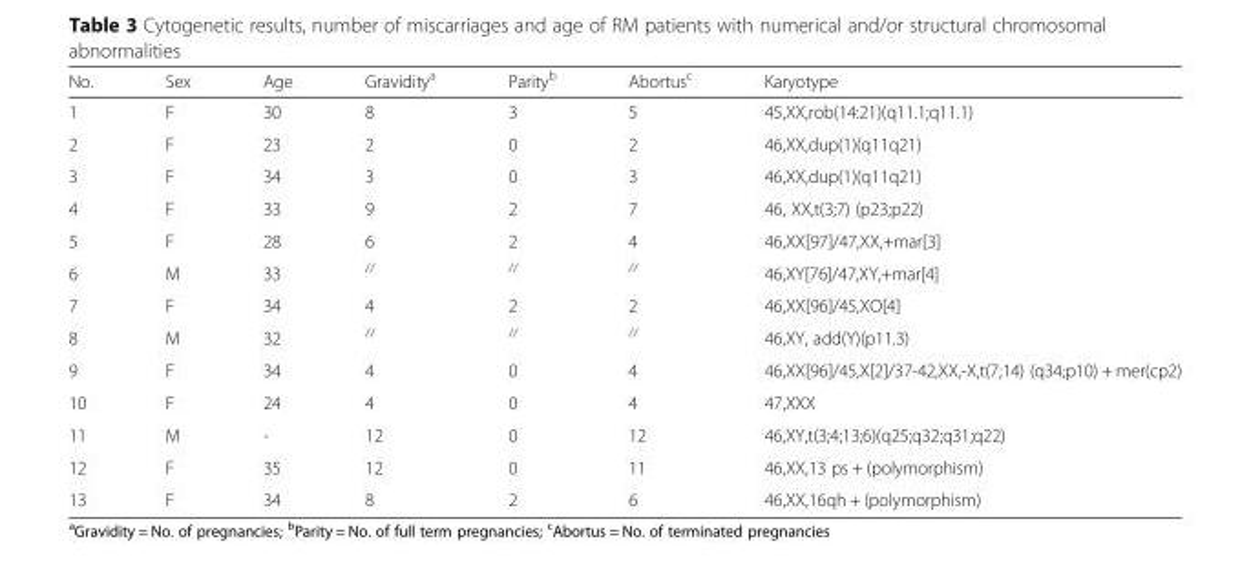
<table><thead><tr><td>No.</td><td>Sex</td><td>Age</td><td>Gravidity<sup>a</sup></td><td>Parity<sup>b</sup></td><td>Abortus<sup>c</sup></td><td>Karyotype</td></tr></thead><tbody><tr><td>1</td><td>F</td><td>30</td><td>8</td><td>3</td><td>5</td><td>45,XX,rob(14:21)(q11.1;q11.1)</td></tr><tr><td>2</td><td>F</td><td>23</td><td>2</td><td>0</td><td>2</td><td>46,XX,dup(1)(q11q21)</td></tr><tr><td>3</td><td>F</td><td>34</td><td>3</td><td>0</td><td>3</td><td>46,XX,dup(1)(q11q21)</td></tr><tr><td>4</td><td>F</td><td>33</td><td>9</td><td>2</td><td>7</td><td>46, XX,t(3;7) (p23;p22)</td></tr><tr><td>5</td><td>F</td><td>28</td><td>6</td><td>2</td><td>4</td><td>46,XX[97]/47,XX,+mar[3]</td></tr><tr><td>6</td><td>M</td><td>33</td><td><sup>//</sup></td><td><sup>//</sup></td><td><sup>//</sup></td><td>46,XY[76]/47,XY,+mar[4]</td></tr><tr><td>7</td><td>F</td><td>34</td><td>4</td><td>2</td><td>2</td><td>46,XX[96]/45,XO[4]</td></tr><tr><td>8</td><td>M</td><td>32</td><td><sup>//</sup></td><td><sup>//</sup></td><td><sup>//</sup></td><td>46,XY, add(Y)(p11.3)</td></tr><tr><td>9</td><td>F</td><td>34</td><td>4</td><td>0</td><td>4</td><td>46,XX[96]/45,X[2]/37-42,XX,-X,t(7;14) (q34;p10) + mer(cp2)</td></tr><tr><td>10</td><td>F</td><td>24</td><td>4</td><td>0</td><td>4</td><td>47,XXX</td></tr><tr><td>11</td><td>M</td><td>-</td><td>12</td><td>0</td><td>12</td><td>46,XY,t(3;4;13;6)(q25;q32;q31;q22)</td></tr><tr><td>12</td><td>F</td><td>35</td><td>12</td><td>0</td><td>11</td><td>46,XX,13 ps + (polymorphism)</td></tr><tr><td>13</td><td>F</td><td>34</td><td>8</td><td>2</td><td>6</td><td>46,XX,16qh + (polymorphism)</td></tr></tbody></table>